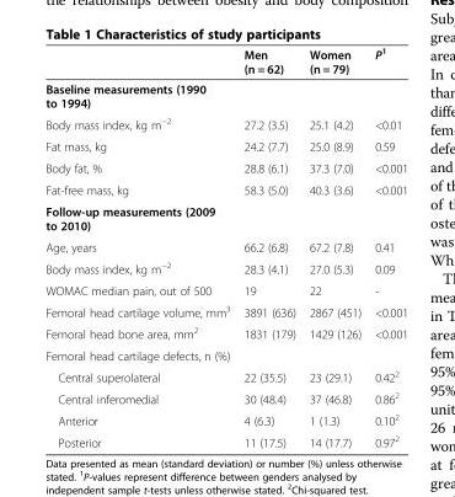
<table><thead><tr><td></td><td>Men (n = 62)</td><td>Women (n = 79)</td><td>P<sup>1</sup></td></tr></thead><tbody><tr><td colspan="4">Baseline measurements (1990 to 1994)</td></tr><tr><td>Body mass index, kg m<sup>−2</sup></td><td>27.2 (3.5)</td><td>25.1 (4.2)</td><td>&lt;0.01</td></tr><tr><td>Fat mass, kg</td><td>24.2 (7.7)</td><td>25.0 (8.9)</td><td>0.59</td></tr><tr><td>Body fat, %</td><td>28.8 (6.1)</td><td>37.3 (7.0)</td><td>&lt;0.001</td></tr><tr><td>Fat-free mass, kg</td><td>58.3 (5.0)</td><td>40.3 (3.6)</td><td>&lt;0.001</td></tr><tr><td colspan="4">Follow-up measurements (2009 to 2010)</td></tr><tr><td>Age, years</td><td>66.2 (6.8)</td><td>67.2 (7.8)</td><td>0.41</td></tr><tr><td>Body mass index, kg m<sup>−2</sup></td><td>28.3 (4.1)</td><td>27.0 (5.3)</td><td>0.09</td></tr><tr><td>WOMAC median pain, out of 500</td><td>19</td><td>22</td><td>-</td></tr><tr><td>Femoral head cartilage volume, mm<sup>3</sup></td><td>3891 (636)</td><td>2867 (451)</td><td>&lt;0.001</td></tr><tr><td>Femoral head bone area, mm<sup>2</sup></td><td>1831 (179)</td><td>1429 (126)</td><td>&lt;0.001</td></tr><tr><td colspan="4">Femoral head cartilage defects, n (%)</td></tr><tr><td>Central superolateral</td><td>22 (35.5)</td><td>23 (29.1)</td><td>0.42<sup>2</sup></td></tr><tr><td>Central inferomedial</td><td>30 (48.4)</td><td>37 (46.8)</td><td>0.86<sup>2</sup></td></tr><tr><td>Anterior</td><td>4 (6.3)</td><td>1 (1.3)</td><td>0.10<sup>2</sup></td></tr><tr><td>Posterior</td><td>11 (17.5)</td><td>14 (17.7)</td><td>0.97<sup>2</sup></td></tr></tbody></table>